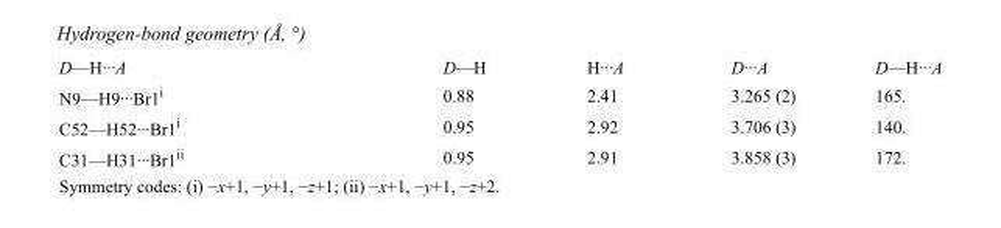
<table><tbody><tr><td>D—H···A</td><td>D—H</td><td>H···A</td><td>D···A</td><td>D—H···A</td></tr><tr><td>N9—H9···Br1<sup>i</sup></td><td>0.88</td><td>2.41</td><td>3.265 (2)</td><td>165.</td></tr><tr><td>C52—H52···Br1<sup>i</sup></td><td>0.95</td><td>2.92</td><td>3.706 (3)</td><td>140.</td></tr><tr><td>C31—H31···Br1<sup>ii</sup></td><td>0.95</td><td>2.91</td><td>3.858 (3)</td><td>172.</td></tr></tbody></table>